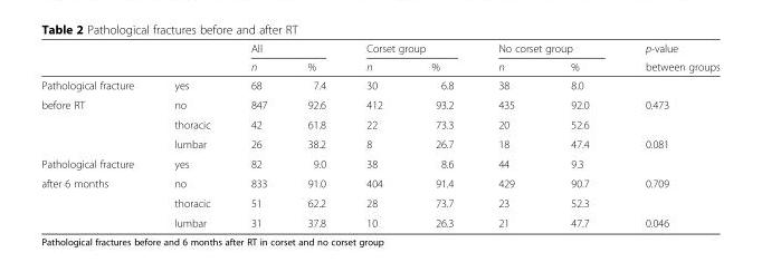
<table><thead><tr><td rowspan="2"></td><td rowspan="2"></td><td colspan="2">All</td><td colspan="2">Corset group</td><td colspan="2">No corset group</td><td rowspan="2">p-value between groups</td></tr><tr><td>n</td><td>%</td><td>n</td><td>%</td><td>n</td><td>%</td></tr></thead><tbody><tr><td>Pathological fracture</td><td>yes</td><td>68</td><td>7.4</td><td>30</td><td>6.8</td><td>38</td><td>8.0</td><td></td></tr><tr><td rowspan="3">before RT</td><td>no</td><td>847</td><td>92.6</td><td>412</td><td>93.2</td><td>435</td><td>92.0</td><td>0.473</td></tr><tr><td>thoracic</td><td>42</td><td>61.8</td><td>22</td><td>73.3</td><td>20</td><td>52.6</td><td></td></tr><tr><td>lumbar</td><td>26</td><td>38.2</td><td>8</td><td>26.7</td><td>18</td><td>47.4</td><td>0.081</td></tr><tr><td>Pathological fracture</td><td>yes</td><td>82</td><td>9.0</td><td>38</td><td>8.6</td><td>44</td><td>9.3</td><td></td></tr><tr><td rowspan="3">after 6 months</td><td>no</td><td>833</td><td>91.0</td><td>404</td><td>91.4</td><td>429</td><td>90.7</td><td>0.709</td></tr><tr><td>thoracic</td><td>51</td><td>62.2</td><td>28</td><td>73.7</td><td>23</td><td>52.3</td><td></td></tr><tr><td>lumbar</td><td>31</td><td>37.8</td><td>10</td><td>26.3</td><td>21</td><td>47.7</td><td>0.046</td></tr></tbody></table>